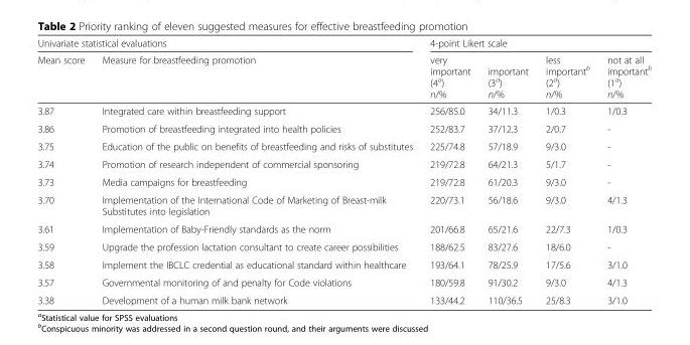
<table><thead><tr><td colspan="2">Univariate statistical evaluations</td><td colspan="4">4-point Likert scale</td></tr><tr><td>Mean score</td><td>Measure for breastfeeding promotion</td><td>very important (4<sup>a</sup>) n/%</td><td>important (3<sup>a</sup>) n/%</td><td>less important<sup>b</sup> (2<sup>a</sup>) n/%</td><td>not at all important<sup>b</sup> (1<sup>a</sup>) n/%</td></tr></thead><tbody><tr><td>3.87</td><td>Integrated care within breastfeeding support</td><td>256/85.0</td><td>34/11.3</td><td>1/0.3</td><td>1/0.3</td></tr><tr><td>3.86</td><td>Promotion of breastfeeding integrated into health policies</td><td>252/83.7</td><td>37/12.3</td><td>2/0.7</td><td>-</td></tr><tr><td>3.75</td><td>Education of the public on benefits of breastfeeding and risks of substitutes</td><td>225/74.8</td><td>57/18.9</td><td>9/3.0</td><td>-</td></tr><tr><td>3.74</td><td>Promotion of research independent of commercial sponsoring</td><td>219/72.8</td><td>64/21.3</td><td>5/1.7</td><td>-</td></tr><tr><td>3.73</td><td>Media campaigns for breastfeeding</td><td>219/72.8</td><td>61/20.3</td><td>9/3.0</td><td>-</td></tr><tr><td>3.70</td><td>Implementation of the International Code of Marketing of Breast-milk Substitutes into legislation</td><td>220/73.1</td><td>56/18.6</td><td>9/3.0</td><td>4/1.3</td></tr><tr><td>3.61</td><td>Implementation of Baby-Friendly standards as the norm</td><td>201/66.8</td><td>65/21.6</td><td>22/7.3</td><td>1/0.3</td></tr><tr><td>3.59</td><td>Upgrade the profession lactation consultant to create career possibilities</td><td>188/62.5</td><td>83/27.6</td><td>18/6.0</td><td>-</td></tr><tr><td>3.58</td><td>Implement the IBCLC credential as educational standard within healthcare</td><td>193/64.1</td><td>78/25.9</td><td>17/5.6</td><td>3/1.0</td></tr><tr><td>3.57</td><td>Governmental monitoring of and penalty for Code violations</td><td>180/59.8</td><td>91/30.2</td><td>9/3.0</td><td>4/1.3</td></tr><tr><td>3.38</td><td>Development of a human milk bank network</td><td>133/44.2</td><td>110/36.5</td><td>25/8.3</td><td>3/1.0</td></tr></tbody></table>